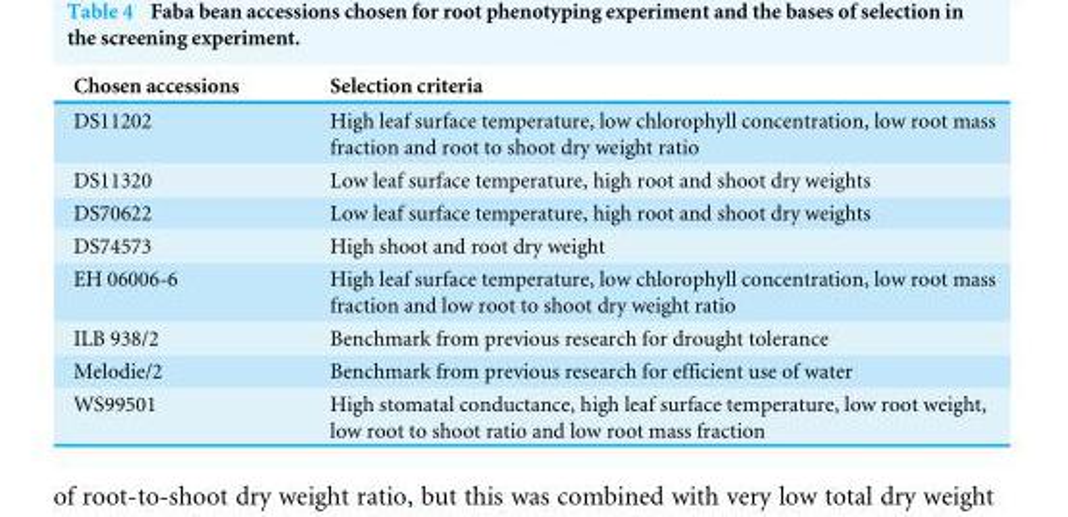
<table><thead><tr><td>Chosen accessions</td><td>Selection criteria</td></tr></thead><tbody><tr><td>DS11202</td><td>High leaf surface temperature, low chlorophyll concentration, low root mass fraction and root to shoot dry weight ratio</td></tr><tr><td>DS11320</td><td>Low leaf surface temperature, high root and shoot dry weights</td></tr><tr><td>DS70622</td><td>Low leaf surface temperature, high root and shoot dry weights</td></tr><tr><td>DS74573</td><td>High shoot and root dry weight</td></tr><tr><td>EH 06006-6</td><td>High leaf surface temperature, low chlorophyll concentration, low root mass fraction and low root to shoot dry weight ratio</td></tr><tr><td>ILB 938/2</td><td>Benchmark from previous research for drought tolerance</td></tr><tr><td>Melodie/2</td><td>Benchmark from previous research for efficient use of water</td></tr><tr><td>WS99501</td><td>High stomatal conductance, high leaf surface temperature, low root weight, low root to shoot ratio and low root mass fraction</td></tr></tbody></table>